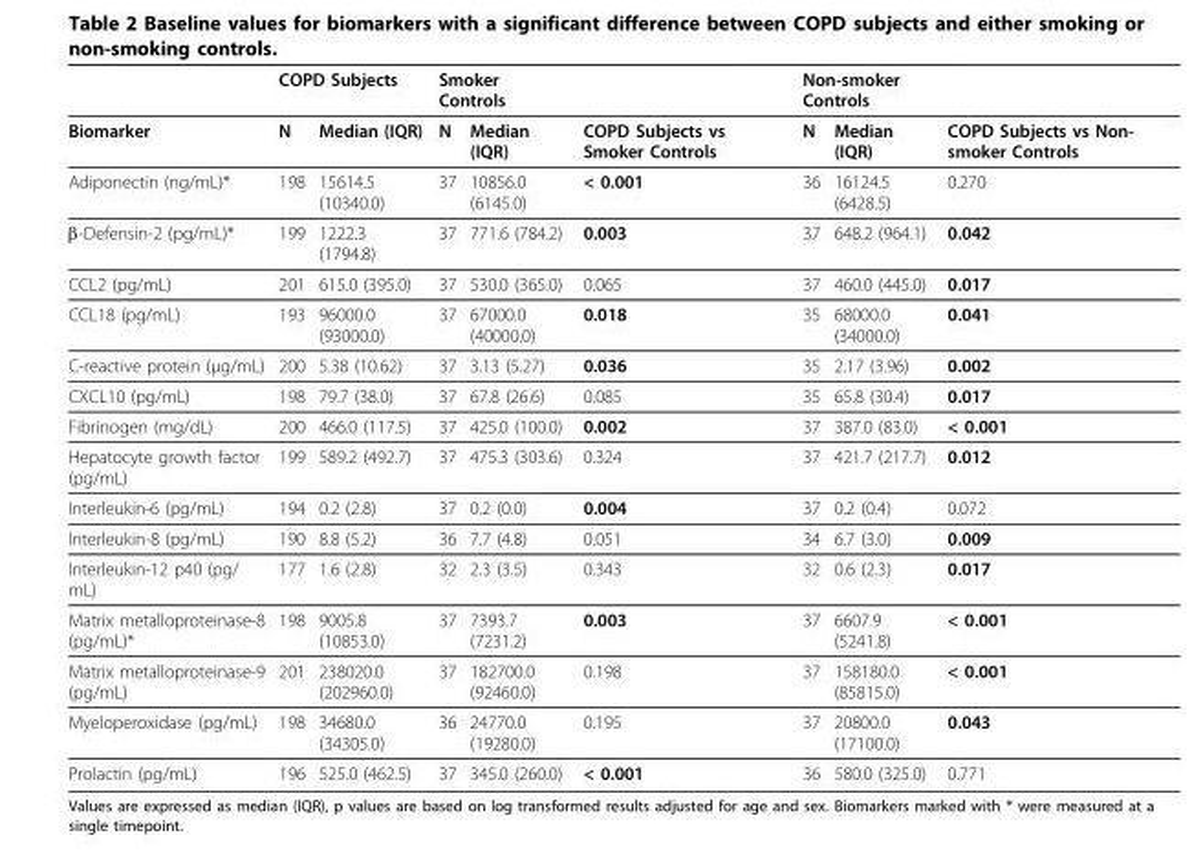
<table><thead><tr><td rowspan="2">Biomarker</td><td colspan="2">COPD Subjects</td><td colspan="2">Smoker Controls</td><td rowspan="2">COPD Subjects vs Smoker Controls</td><td colspan="2">Non-smoker Controls</td><td rowspan="2">COPD Subjects vs Non- smoker Controls</td></tr><tr><td>N</td><td>Median (IQR)</td><td>N</td><td>Median (IQR)</td><td>N</td><td>Median (IQR)</td></tr></thead><tbody><tr><td>Adiponectin (ng/mL)*</td><td>198</td><td>15614.5 (10340.0)</td><td>37</td><td>10856.0 (6145.0)</td><td>&lt; 0.001</td><td>36</td><td>16124.5 (6428.5)</td><td>0.270</td></tr><tr><td>β-Defensin-2 (pg/mL)*</td><td>199</td><td>1222.3 (1794.8)</td><td>37</td><td>771.6 (784.2)</td><td>0.003</td><td>37</td><td>648.2 (964.1)</td><td>0.042</td></tr><tr><td>CCL2 (pg/mL)</td><td>201</td><td>615.0 (395.0)</td><td>37</td><td>530.0 (365.0)</td><td>0.065</td><td>37</td><td>460.0 (445.0)</td><td>0.017</td></tr><tr><td>CCL18 (pg/mL)</td><td>193</td><td>96000.0 (93000.0)</td><td>37</td><td>67000.0 (40000.0)</td><td>0.018</td><td>35</td><td>68000.0 (34000.0)</td><td>0.041</td></tr><tr><td>C-reactive protein (μg/mL)</td><td>200</td><td>5.38 (10.62)</td><td>37</td><td>3.13 (5.27)</td><td>0.036</td><td>35</td><td>2.17 (3.96)</td><td>0.002</td></tr><tr><td>CXCL10 (pg/mL)</td><td>198</td><td>79.7 (38.0)</td><td>37</td><td>67.8 (26.6)</td><td>0.085</td><td>35</td><td>65.8 (30.4)</td><td>0.017</td></tr><tr><td>Fibrinogen (mg/dL)</td><td>200</td><td>466.0 (117.5)</td><td>37</td><td>425.0 (100.0)</td><td>0.002</td><td>37</td><td>387.0 (83.0)</td><td>&lt; 0.001</td></tr><tr><td>Hepatocyte growth factor (pg/mL)</td><td>199</td><td>589.2 (492.7)</td><td>37</td><td>475.3 (303.6)</td><td>0.324</td><td>37</td><td>421.7 (217.7)</td><td>0.012</td></tr><tr><td>Interleukin-6 (pg/mL)</td><td>194</td><td>0.2 (2.8)</td><td>37</td><td>0.2 (0.0)</td><td>0.004</td><td>37</td><td>0.2 (0.4)</td><td>0.072</td></tr><tr><td>Interleukin-8 (pg/mL)</td><td>190</td><td>8.8 (5.2)</td><td>36</td><td>7.7 (4.8)</td><td>0.051</td><td>34</td><td>6.7 (3.0)</td><td>0.009</td></tr><tr><td>Interleukin-12 p40 (pg/ mL)</td><td>177</td><td>1.6 (2.8)</td><td>32</td><td>2.3 (3.5)</td><td>0.343</td><td>32</td><td>0.6 (2.3)</td><td>0.017</td></tr><tr><td>Matrix metalloproteinase-8 (pg/mL)*</td><td>198</td><td>9005.8 (10853.0)</td><td>37</td><td>7393.7 (7231.2)</td><td>0.003</td><td>37</td><td>6607.9 (5241.8)</td><td>&lt; 0.001</td></tr><tr><td>Matrix metalloproteinase-9 (pg/mL)</td><td>201</td><td>238020.0 (202960.0)</td><td>37</td><td>182700.0 (92460.0)</td><td>0.198</td><td>37</td><td>158180.0 (85815.0)</td><td>&lt; 0.001</td></tr><tr><td>Myeloperoxidase (pg/mL)</td><td>198</td><td>34680.0 (34305.0)</td><td>36</td><td>24770.0 (19280.0)</td><td>0.195</td><td>37</td><td>20800.0 (17100.0)</td><td>0.043</td></tr><tr><td>Prolactin (pg/mL)</td><td>196</td><td>525.0 (462.5)</td><td>37</td><td>345.0 (260.0)</td><td>&lt; 0.001</td><td>36</td><td>580.0 (325.0)</td><td>0.771</td></tr></tbody></table>